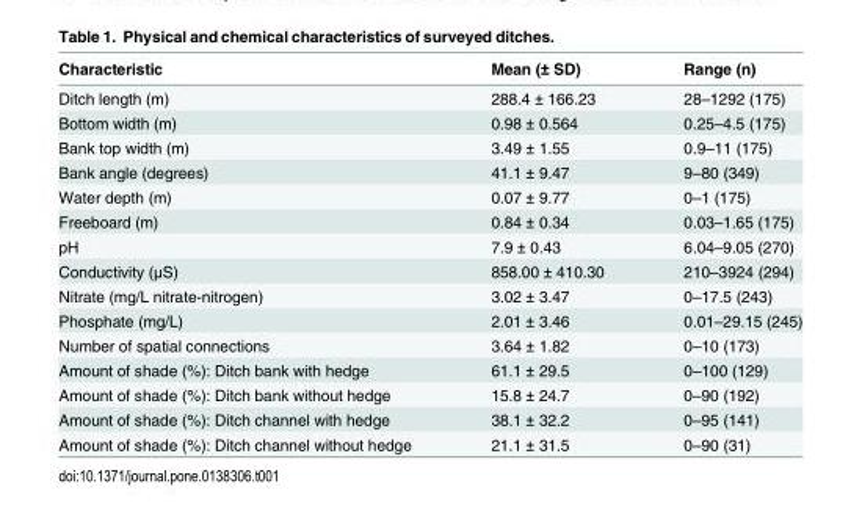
<table><thead><tr><td>Characteristic</td><td>Mean (± SD)</td><td>Range (n)</td></tr></thead><tbody><tr><td>Ditch length (m)</td><td>288.4 ± 166.23</td><td>28–1292 (175)</td></tr><tr><td>Bottom width (m)</td><td>0.98 ± 0.564</td><td>0.25–4.5 (175)</td></tr><tr><td>Bank top width (m)</td><td>3.49 ± 1.55</td><td>0.9–11 (175)</td></tr><tr><td>Bank angle (degrees)</td><td>41.1 ± 9.47</td><td>9–80 (349)</td></tr><tr><td>Water depth (m)</td><td>0.07 ± 9.77</td><td>0–1 (175)</td></tr><tr><td>Freeboard (m)</td><td>0.84 ± 0.34</td><td>0.03–1.65 (175)</td></tr><tr><td>pH</td><td>7.9 ± 0.43</td><td>6.04–9.05 (270)</td></tr><tr><td>Conductivity (μS)</td><td>858.00 ± 410.30</td><td>210–3924 (294)</td></tr><tr><td>Nitrate (mg/L nitrate-nitrogen)</td><td>3.02 ± 3.47</td><td>0–17.5 (243)</td></tr><tr><td>Phosphate (mg/L)</td><td>2.01 ± 3.46</td><td>0.01–29.15 (245)</td></tr><tr><td>Number of spatial connections</td><td>3.64 ± 1.82</td><td>0–10 (173)</td></tr><tr><td>Amount of shade (%): Ditch bank with hedge</td><td>61.1 ± 29.5</td><td>0–100 (129)</td></tr><tr><td>Amount of shade (%): Ditch bank without hedge</td><td>15.8 ± 24.7</td><td>0–90 (192)</td></tr><tr><td>Amount of shade (%): Ditch channel with hedge</td><td>38.1 ± 32.2</td><td>0–95 (141)</td></tr><tr><td>Amount of shade (%): Ditch channel without hedge</td><td>21.1 ± 31.5</td><td>0–90 (31)</td></tr></tbody></table>